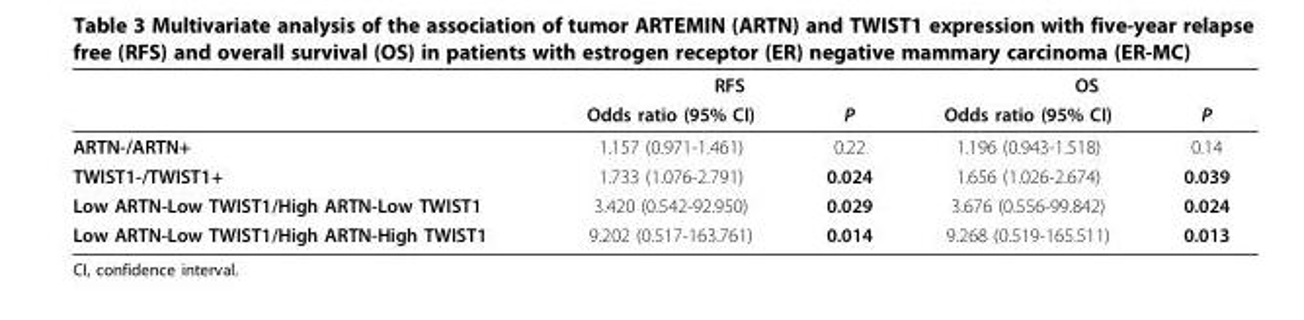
<table><thead><tr><td rowspan="2"></td><td colspan="2">RFS</td><td colspan="2">OS</td></tr><tr><td>Odds ratio (95% CI)</td><td>P</td><td>Odds ratio (95% CI)</td><td>P</td></tr></thead><tbody><tr><td>ARTN-/ARTN+</td><td>1.157 (0.971-1.461)</td><td>0.22</td><td>1.196 (0.943-1.518)</td><td>0.14</td></tr><tr><td>TWIST1-/TWIST1+</td><td>1.733 (1.076-2.791)</td><td>0.024</td><td>1.656 (1.026-2.674)</td><td>0.039</td></tr><tr><td>Low ARTN-Low TWIST1/High ARTN-Low TWIST1</td><td>3.420 (0.542-92.950)</td><td>0.029</td><td>3.676 (0.556-99.842)</td><td>0.024</td></tr><tr><td>Low ARTN-Low TWIST1/High ARTN-High TWIST1</td><td>9.202 (0.517-163.761)</td><td>0.014</td><td>9.268 (0.519-165.511)</td><td>0.013</td></tr></tbody></table>